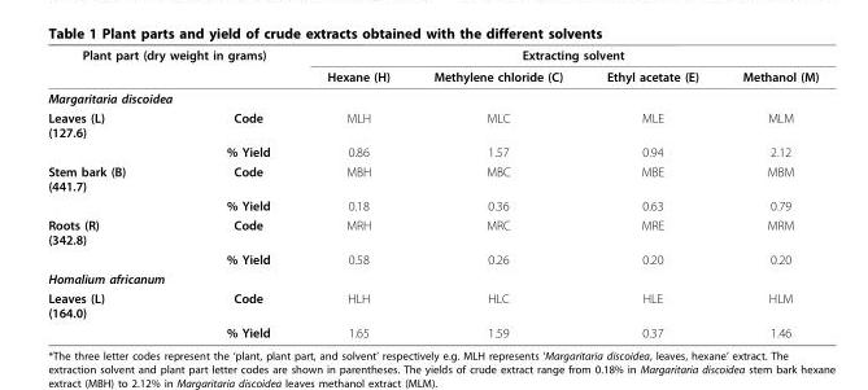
<table><thead><tr><td colspan="2">Plant part (dry weight in grams)</td><td colspan="4">Extracting solvent</td></tr><tr><td></td><td></td><td>Hexane (H)</td><td>Methylene chloride (C)</td><td>Ethyl acetate (E)</td><td>Methanol (M)</td></tr></thead><tbody><tr><td colspan="6">Margaritaria discoidea</td></tr><tr><td rowspan="2">Leaves (L) (127.6)</td><td>Code</td><td>MLH</td><td>MLC</td><td>MLE</td><td>MLM</td></tr><tr><td>% Yield</td><td>0.86</td><td>1.57</td><td>0.94</td><td>2.12</td></tr><tr><td rowspan="2">Stem bark (B) (441.7)</td><td>Code</td><td>MBH</td><td>MBC</td><td>MBE</td><td>MBM</td></tr><tr><td>% Yield</td><td>0.18</td><td>0.36</td><td>0.63</td><td>0.79</td></tr><tr><td rowspan="2">Roots (R) (342.8)</td><td>Code</td><td>MRH</td><td>MRC</td><td>MRE</td><td>MRM</td></tr><tr><td>% Yield</td><td>0.58</td><td>0.26</td><td>0.20</td><td>0.20</td></tr><tr><td colspan="6">Homalium africanum</td></tr><tr><td rowspan="2">Leaves (L) (164.0)</td><td>Code</td><td>HLH</td><td>HLC</td><td>HLE</td><td>HLM</td></tr><tr><td>% Yield</td><td>1.65</td><td>1.59</td><td>0.37</td><td>1.46</td></tr></tbody></table>